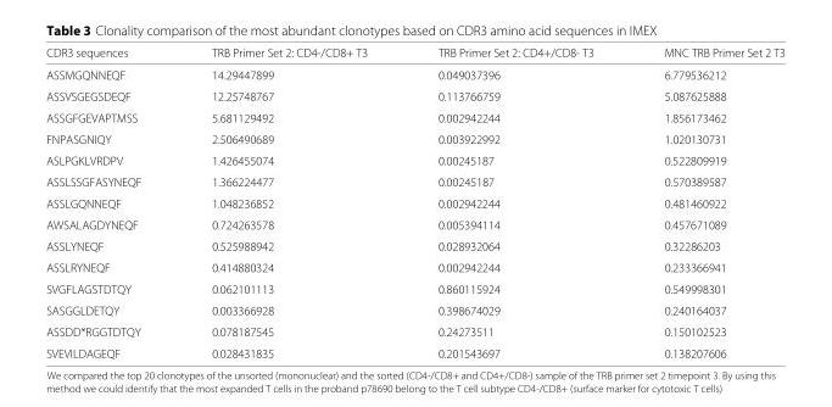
<table><thead><tr><td>CDR3 sequences</td><td>TRB Primer Set 2: CD4-/CD8+ T3</td><td>TRB Primer Set 2: CD4+/CD8- T3</td><td>MNC TRB Primer Set 2 T3</td></tr></thead><tbody><tr><td>ASSMGQNNEQF</td><td>14.29447899</td><td>0.049037396</td><td>6.779536212</td></tr><tr><td>ASSVSGEGSDEQF</td><td>12.25748767</td><td>0.113766759</td><td>5.087625888</td></tr><tr><td>ASSGFGEVAPTMSS</td><td>5.681129492</td><td>0.002942244</td><td>1.856173462</td></tr><tr><td>FNPASGNIQY</td><td>2.506490689</td><td>0.003922992</td><td>1.020130731</td></tr><tr><td>ASLPGKLVRDPV</td><td>1.426455074</td><td>0.00245187</td><td>0.522809919</td></tr><tr><td>ASSLSSGFASYNEQF</td><td>1.366224477</td><td>0.00245187</td><td>0.570389587</td></tr><tr><td>ASSLGQNNEQF</td><td>1.048236852</td><td>0.002942244</td><td>0.481460922</td></tr><tr><td>AWSALAGDYNEQF</td><td>0.724263578</td><td>0.005394114</td><td>0.457671089</td></tr><tr><td>ASSLYNEQF</td><td>0.525988942</td><td>0.028932064</td><td>0.32286203</td></tr><tr><td>ASSLRYNEQF</td><td>0.414880324</td><td>0.002942244</td><td>0.233366941</td></tr><tr><td>SVGFLAGSTDTQY</td><td>0.062101113</td><td>0.860115924</td><td>0.549998301</td></tr><tr><td>SASGGLDETQY</td><td>0.003366928</td><td>0.398674029</td><td>0.240164037</td></tr><tr><td>ASSDD*RGGTDTQY</td><td>0.078187545</td><td>0.24273511</td><td>0.150102523</td></tr><tr><td>SVEVILDAGEQF</td><td>0.028431835</td><td>0.201543697</td><td>0.138207606</td></tr></tbody></table>